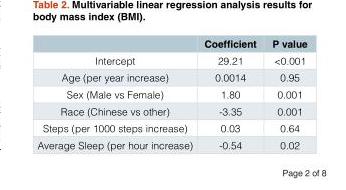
<table><thead><tr><td></td><td>Coefficient</td><td>P value</td></tr></thead><tbody><tr><td>Intercept</td><td>29.21</td><td>&lt;0.001</td></tr><tr><td>Age (per year increase)</td><td>0.0014</td><td>0.95</td></tr><tr><td>Sex (Male vs Female)</td><td>1.80</td><td>0.001</td></tr><tr><td>Race (Chinese vs other)</td><td>-3.35</td><td>0.001</td></tr><tr><td>Steps (per 1000 steps increase)</td><td>0.03</td><td>0.64</td></tr><tr><td>Average Sleep (per hour increase)</td><td>-0.54</td><td>0.02</td></tr></tbody></table>